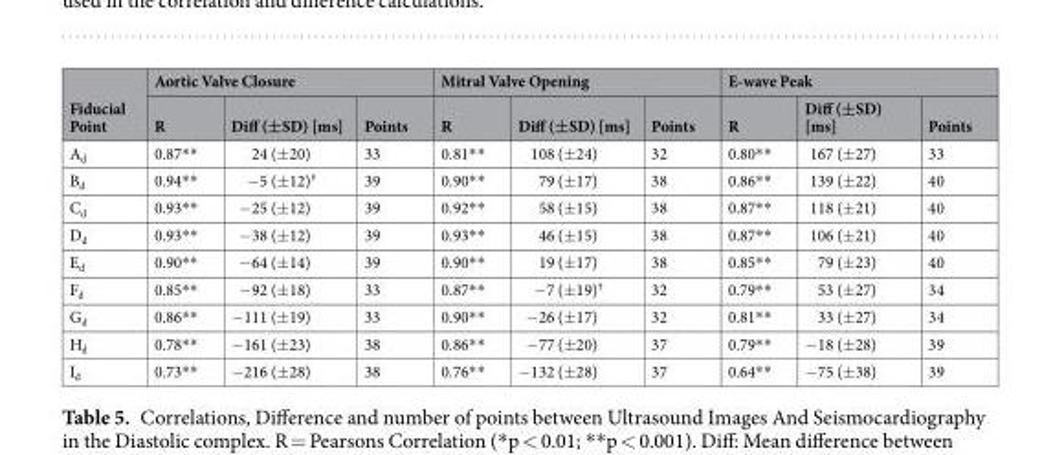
<table><thead><tr><td rowspan="2">Fiducial Point</td><td colspan="3">Aortic Valve Closure</td><td colspan="3">Mitral Valve Opening</td><td colspan="3">E-wave Peak</td></tr><tr><td>R</td><td>Diff (±SD) [ms]</td><td>Points</td><td>R</td><td>Diff (±SD) [ms]</td><td>Points</td><td>R</td><td>Diff (±SD) [ms]</td><td>Points</td></tr></thead><tbody><tr><td>A<sub>d</sub></td><td>0.87**</td><td>24 (±20)</td><td>33</td><td>0.81**</td><td>108 (±24)</td><td>32</td><td>0.80**</td><td>167 (±27)</td><td>33</td></tr><tr><td>B<sub>d</sub></td><td>0.94**</td><td>−5 (±12)<sup>†</sup></td><td>39</td><td>0.90**</td><td>79 (±17)</td><td>38</td><td>0.86**</td><td>139 (±22)</td><td>40</td></tr><tr><td>C<sub>d</sub></td><td>0.93**</td><td>−25 (±12)</td><td>39</td><td>0.92**</td><td>58 (±15)</td><td>38</td><td>0.87**</td><td>118 (±21)</td><td>40</td></tr><tr><td>D<sub>d</sub></td><td>0.93**</td><td>−38 (±12)</td><td>39</td><td>0.93**</td><td>46 (±15)</td><td>38</td><td>0.87**</td><td>106 (±21)</td><td>40</td></tr><tr><td>E<sub>d</sub></td><td>0.90**</td><td>−64 (±14)</td><td>39</td><td>0.90**</td><td>19 (±17)</td><td>38</td><td>0.85**</td><td>79 (±23)</td><td>40</td></tr><tr><td>F<sub>d</sub></td><td>0.85**</td><td>−92 (±18)</td><td>33</td><td>0.87**</td><td>−7 (±19)<sup>†</sup></td><td>32</td><td>0.79**</td><td>53 (±27)</td><td>34</td></tr><tr><td>G<sub>d</sub></td><td>0.86**</td><td>−111 (±19)</td><td>33</td><td>0.90**</td><td>−26 (±17)</td><td>32</td><td>0.81**</td><td>33 (±27)</td><td>34</td></tr><tr><td>H<sub>d</sub></td><td>0.78**</td><td>−161 (±23)</td><td>38</td><td>0.86**</td><td>−77 (±20)</td><td>37</td><td>0.79**</td><td>−18 (±28)</td><td>39</td></tr><tr><td>I<sub>d</sub></td><td>0.73**</td><td>−216 (±28)</td><td>38</td><td>0.76**</td><td>−132 (±28)</td><td>37</td><td>0.64**</td><td>−75 (±38)</td><td>39</td></tr></tbody></table>